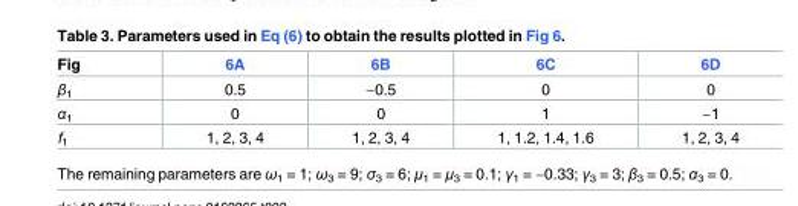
<table><thead><tr><td>Fig</td><td>6A</td><td>6B</td><td>6C</td><td>6D</td></tr></thead><tbody><tr><td>β<sub>1</sub></td><td>0.5</td><td>−0.5</td><td>0</td><td>0</td></tr><tr><td>α<sub>1</sub></td><td>0</td><td>0</td><td>1</td><td>−1</td></tr><tr><td>f<sub>1</sub></td><td>1, 2, 3, 4</td><td>1, 2, 3, 4</td><td>1, 1.2, 1.4, 1.6</td><td>1, 2, 3, 4</td></tr></tbody></table>